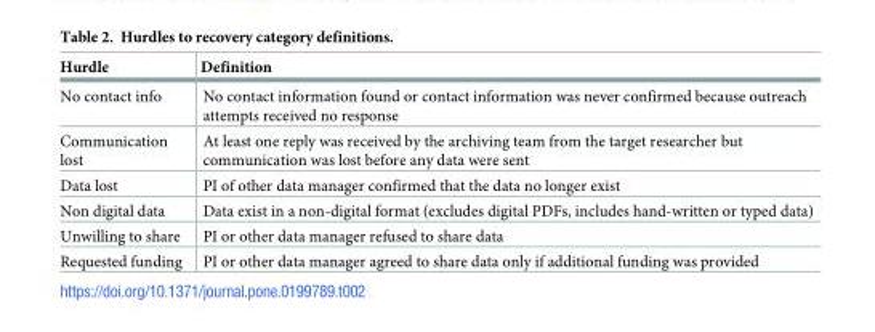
<table><thead><tr><td>Hurdle</td><td>Definition</td></tr></thead><tbody><tr><td>No contact info</td><td>No contact information found or contact information was never confirmed because outreach attempts received no response</td></tr><tr><td>Communication lost</td><td>At least one reply was received by the archiving team from the target researcher but communication was lost before any data were sent</td></tr><tr><td>Data lost</td><td>PI of other data manager confirmed that the data no longer exist</td></tr><tr><td>Non digital data</td><td>Data exist in a non-digital format (excludes digital PDFs, includes hand-written or typed data)</td></tr><tr><td>Unwilling to share</td><td>PI or other data manager refused to share data</td></tr><tr><td>Requested funding</td><td>PI or other data manager agreed to share data only if additional funding was provided</td></tr></tbody></table>